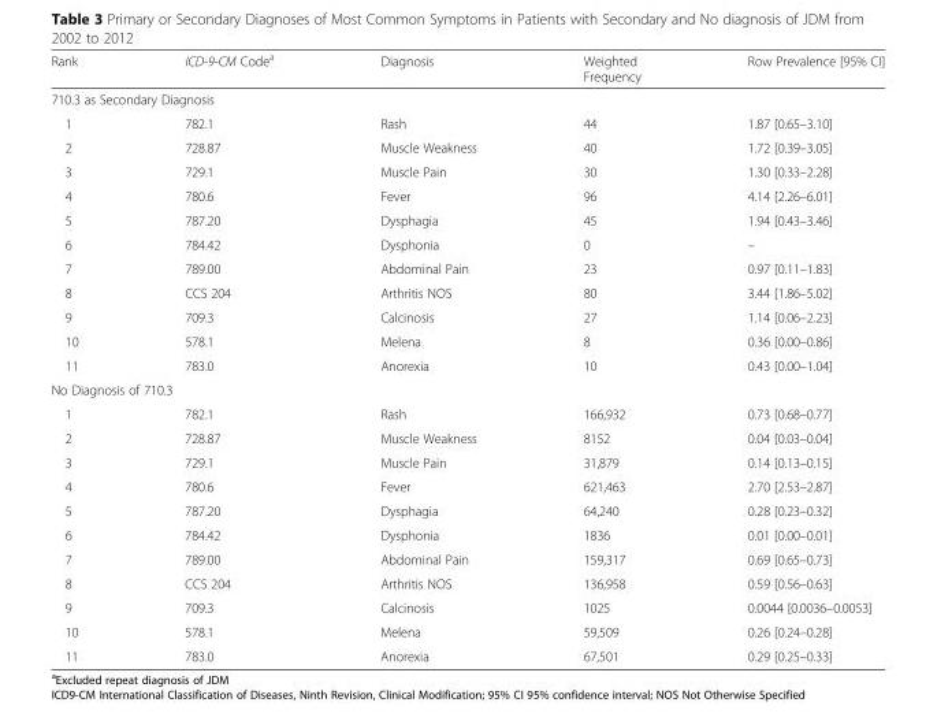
<table><thead><tr><td>Rank</td><td>ICD-9-CM Code<sup>a</sup></td><td>Diagnosis</td><td>Weighted Frequency</td><td>Row Prevalence [95% CI]</td></tr></thead><tbody><tr><td colspan="5">710.3 as Secondary Diagnosis</td></tr><tr><td>1</td><td>782.1</td><td>Rash</td><td>44</td><td>1.87 [0.65–3.10]</td></tr><tr><td>2</td><td>728.87</td><td>Muscle Weakness</td><td>40</td><td>1.72 [0.39–3.05]</td></tr><tr><td>3</td><td>729.1</td><td>Muscle Pain</td><td>30</td><td>1.30 [0.33–2.28]</td></tr><tr><td>4</td><td>780.6</td><td>Fever</td><td>96</td><td>4.14 [2.26–6.01]</td></tr><tr><td>5</td><td>787.20</td><td>Dysphagia</td><td>45</td><td>1.94 [0.43–3.46]</td></tr><tr><td>6</td><td>784.42</td><td>Dysphonia</td><td>0</td><td>–</td></tr><tr><td>7</td><td>789.00</td><td>Abdominal Pain</td><td>23</td><td>0.97 [0.11–1.83]</td></tr><tr><td>8</td><td>CCS 204</td><td>Arthritis NOS</td><td>80</td><td>3.44 [1.86–5.02]</td></tr><tr><td>9</td><td>709.3</td><td>Calcinosis</td><td>27</td><td>1.14 [0.06–2.23]</td></tr><tr><td>10</td><td>578.1</td><td>Melena</td><td>8</td><td>0.36 [0.00–0.86]</td></tr><tr><td>11</td><td>783.0</td><td>Anorexia</td><td>10</td><td>0.43 [0.00–1.04]</td></tr><tr><td colspan="5">No Diagnosis of 710.3</td></tr><tr><td>1</td><td>782.1</td><td>Rash</td><td>166,932</td><td>0.73 [0.68–0.77]</td></tr><tr><td>2</td><td>728.87</td><td>Muscle Weakness</td><td>8152</td><td>0.04 [0.03–0.04]</td></tr><tr><td>3</td><td>729.1</td><td>Muscle Pain</td><td>31,879</td><td>0.14 [0.13–0.15]</td></tr><tr><td>4</td><td>780.6</td><td>Fever</td><td>621,463</td><td>2.70 [2.53–2.87]</td></tr><tr><td>5</td><td>787.20</td><td>Dysphagia</td><td>64,240</td><td>0.28 [0.23–0.32]</td></tr><tr><td>6</td><td>784.42</td><td>Dysphonia</td><td>1836</td><td>0.01 [0.00–0.01]</td></tr><tr><td>7</td><td>789.00</td><td>Abdominal Pain</td><td>159,317</td><td>0.69 [0.65–0.73]</td></tr><tr><td>8</td><td>CCS 204</td><td>Arthritis NOS</td><td>136,958</td><td>0.59 [0.56–0.63]</td></tr><tr><td>9</td><td>709.3</td><td>Calcinosis</td><td>1025</td><td>0.0044 [0.0036–0.0053]</td></tr><tr><td>10</td><td>578.1</td><td>Melena</td><td>59,509</td><td>0.26 [0.24–0.28]</td></tr><tr><td>11</td><td>783.0</td><td>Anorexia</td><td>67,501</td><td>0.29 [0.25–0.33]</td></tr></tbody></table>